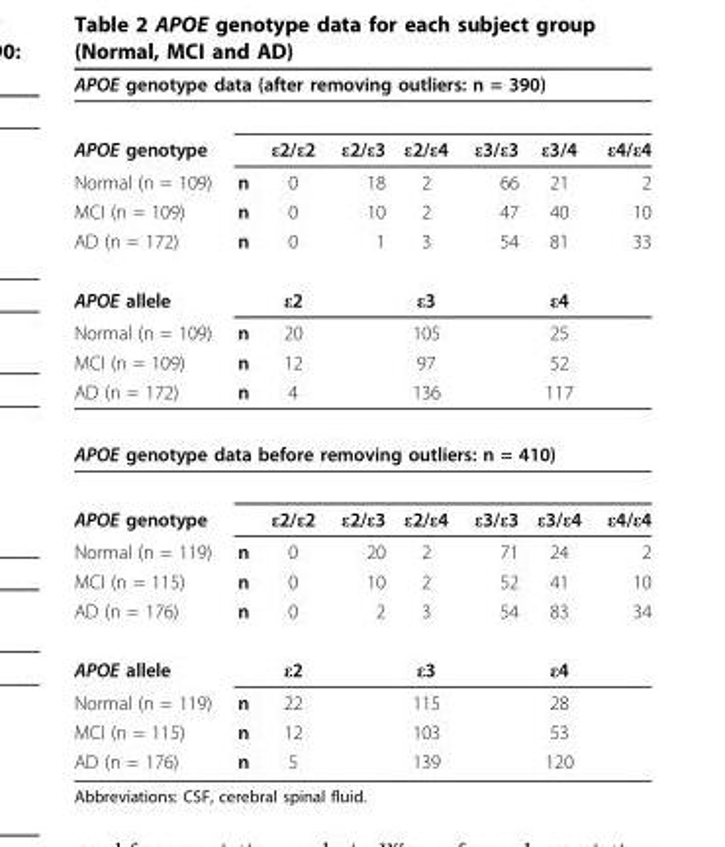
<table><thead><tr><td colspan="8">APOE genotype data (after removing outliers: n = 390)</td></tr><tr><td>APOE genotype</td><td></td><td>ε2/ε2</td><td>ε2/ε3</td><td>ε2/ε4</td><td>ε3/ε3</td><td>ε3/4</td><td>ε4/ε4</td></tr></thead><tbody><tr><td>Normal (n = 109)</td><td>n</td><td>0</td><td>18</td><td>2</td><td>66</td><td>21</td><td>2</td></tr><tr><td>MCI (n = 109)</td><td>n</td><td>0</td><td>10</td><td>2</td><td>47</td><td>40</td><td>10</td></tr><tr><td>AD (n = 172)</td><td>n</td><td>0</td><td>1</td><td>3</td><td>54</td><td>81</td><td>33</td></tr><tr><td>APOE allele</td><td></td><td>ε2</td><td></td><td>ε3</td><td></td><td>ε4</td><td></td></tr><tr><td>Normal (n = 109)</td><td>n</td><td>20</td><td></td><td>105</td><td></td><td>25</td><td></td></tr><tr><td>MCI (n = 109)</td><td>n</td><td>12</td><td></td><td>97</td><td></td><td>52</td><td></td></tr><tr><td>AD (n = 172)</td><td>n</td><td>4</td><td></td><td>136</td><td></td><td>117</td><td></td></tr><tr><td colspan="8">APOE genotype data before removing outliers: n = 410)</td></tr><tr><td>APOE genotype</td><td></td><td>ε2/ε2</td><td>ε2/ε3</td><td>ε2/ε4</td><td>ε3/ε3</td><td>ε3/ε4</td><td>ε4/ε4</td></tr><tr><td>Normal (n = 119)</td><td>n</td><td>0</td><td>20</td><td>2</td><td>71</td><td>24</td><td>2</td></tr><tr><td>MCI (n = 115)</td><td>n</td><td>0</td><td>10</td><td>2</td><td>52</td><td>41</td><td>10</td></tr><tr><td>AD (n = 176)</td><td>n</td><td>0</td><td>2</td><td>3</td><td>54</td><td>83</td><td>34</td></tr><tr><td>APOE allele</td><td></td><td>ε2</td><td></td><td>ε3</td><td></td><td>ε4</td><td></td></tr><tr><td>Normal (n = 119)</td><td>n</td><td>22</td><td></td><td>115</td><td></td><td>28</td><td></td></tr><tr><td>MCI (n = 115)</td><td>n</td><td>12</td><td></td><td>103</td><td></td><td>53</td><td></td></tr><tr><td>AD (n = 176)</td><td>n</td><td>5</td><td></td><td>139</td><td></td><td>120</td><td></td></tr></tbody></table>